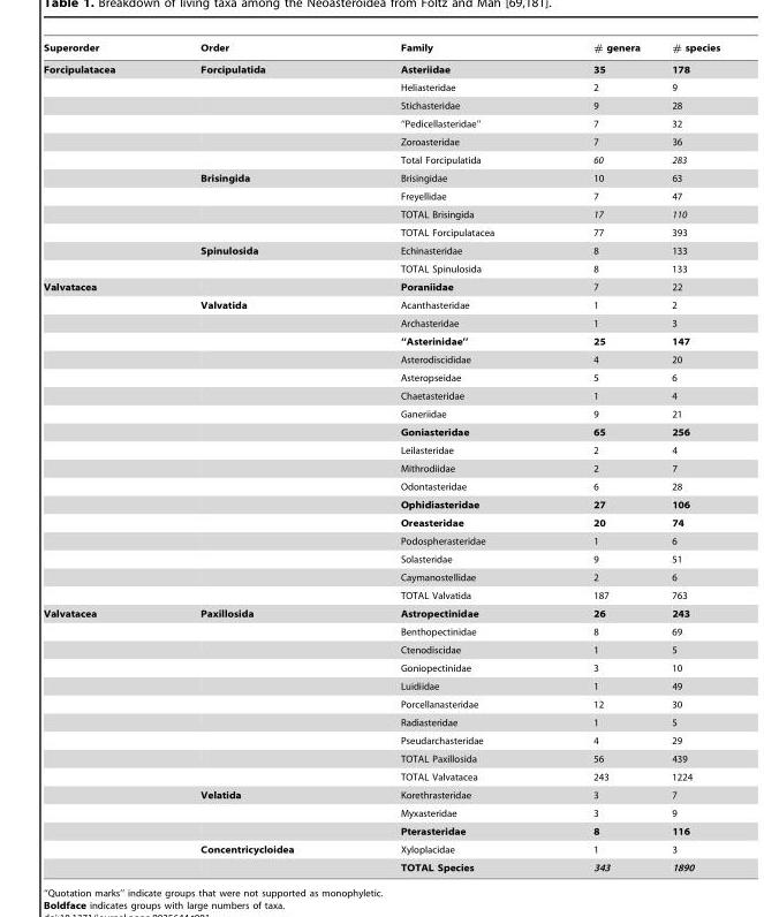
<table><thead><tr><td>Superorder</td><td>Order</td><td>Family</td><td># genera</td><td># species</td></tr></thead><tbody><tr><td rowspan="12">Forcipulatacea</td><td>Forcipulatida</td><td>Asteriidae</td><td>35</td><td>178</td></tr><tr><td></td><td>Heliasteridae</td><td>2</td><td>9</td></tr><tr><td></td><td>Stichasteridae</td><td>9</td><td>28</td></tr><tr><td></td><td>‘‘Pedicellasteridae’’</td><td>7</td><td>32</td></tr><tr><td></td><td>Zoroasteridae</td><td>7</td><td>36</td></tr><tr><td></td><td>Total Forcipulatida</td><td>60</td><td>283</td></tr><tr><td>Brisingida</td><td>Brisingidae</td><td>10</td><td>63</td></tr><tr><td></td><td>Freyellidae</td><td>7</td><td>47</td></tr><tr><td></td><td>TOTAL Brisingida</td><td>17</td><td>110</td></tr><tr><td></td><td>TOTAL Forcipulatacea</td><td>77</td><td>393</td></tr><tr><td>Spinulosida</td><td>Echinasteridae</td><td>8</td><td>133</td></tr><tr><td></td><td>TOTAL Spinulosida</td><td>8</td><td>133</td></tr><tr><td rowspan="18">Valvatacea</td><td></td><td>Poraniidae</td><td>7</td><td>22</td></tr><tr><td>Valvatida</td><td>Acanthasteridae</td><td>1</td><td>2</td></tr><tr><td></td><td>Archasteridae</td><td>1</td><td>3</td></tr><tr><td></td><td>‘‘Asterinidae’’</td><td>25</td><td>147</td></tr><tr><td></td><td>Asterodiscididae</td><td>4</td><td>20</td></tr><tr><td></td><td>Asteropseidae</td><td>5</td><td>6</td></tr><tr><td></td><td>Chaetasteridae</td><td>1</td><td>4</td></tr><tr><td></td><td>Ganeriidae</td><td>9</td><td>21</td></tr><tr><td></td><td>Goniasteridae</td><td>65</td><td>256</td></tr><tr><td></td><td>Leilasteridae</td><td>2</td><td>4</td></tr><tr><td></td><td>Mithrodiidae</td><td>2</td><td>7</td></tr><tr><td></td><td>Odontasteridae</td><td>6</td><td>28</td></tr><tr><td></td><td>Ophidiasteridae</td><td>27</td><td>106</td></tr><tr><td></td><td>Oreasteridae</td><td>20</td><td>74</td></tr><tr><td></td><td>Podospherasteridae</td><td>1</td><td>6</td></tr><tr><td></td><td>Solasteridae</td><td>9</td><td>51</td></tr><tr><td></td><td>Caymanostellidae</td><td>2</td><td>6</td></tr><tr><td></td><td>TOTAL Valvatida</td><td>187</td><td>763</td></tr><tr><td rowspan="15">Valvatacea</td><td>Paxillosida</td><td>Astropectinidae</td><td>26</td><td>243</td></tr><tr><td></td><td>Benthopectinidae</td><td>8</td><td>69</td></tr><tr><td></td><td>Ctenodiscidae</td><td>1</td><td>5</td></tr><tr><td></td><td>Goniopectinidae</td><td>3</td><td>10</td></tr><tr><td></td><td>Luidiidae</td><td>1</td><td>49</td></tr><tr><td></td><td>Porcellanasteridae</td><td>12</td><td>30</td></tr><tr><td></td><td>Radiasteridae</td><td>1</td><td>5</td></tr><tr><td></td><td>Pseudarchasteridae</td><td>4</td><td>29</td></tr><tr><td></td><td>TOTAL Paxillosida</td><td>56</td><td>439</td></tr><tr><td></td><td>TOTAL Valvatacea</td><td>243</td><td>1224</td></tr><tr><td>Velatida</td><td>Korethrasteridae</td><td>3</td><td>7</td></tr><tr><td></td><td>Myxasteridae</td><td>3</td><td>9</td></tr><tr><td></td><td>Pterasteridae</td><td>8</td><td>116</td></tr><tr><td>Concentricycloidea</td><td>Xyloplacidae</td><td>1</td><td>3</td></tr><tr><td></td><td>TOTAL Species</td><td>343</td><td>1890</td></tr></tbody></table>